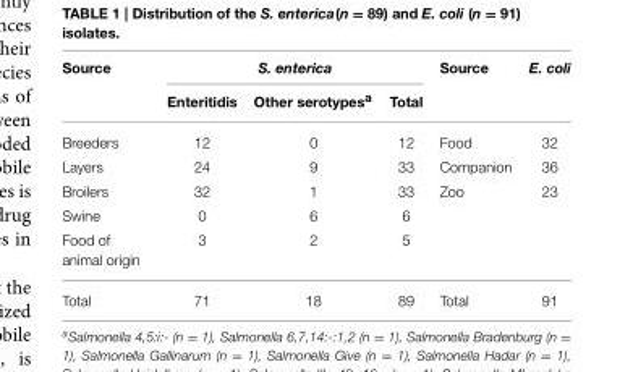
<table><thead><tr><td rowspan="2">Source</td><td colspan="3">S. enterica</td><td rowspan="2">Source</td><td rowspan="2">E. coli</td></tr><tr><td>Enteritidis</td><td>Other serotypes<sup>a</sup></td><td>Total</td></tr></thead><tbody><tr><td>Breeders</td><td>12</td><td>0</td><td>12</td><td>Food</td><td>32</td></tr><tr><td>Layers</td><td>24</td><td>9</td><td>33</td><td>Companion</td><td>36</td></tr><tr><td>Broilers</td><td>32</td><td>1</td><td>33</td><td>Zoo</td><td>23</td></tr><tr><td>Swine</td><td>0</td><td>6</td><td>6</td><td></td><td></td></tr><tr><td>Food of animal origin</td><td>3</td><td>2</td><td>5</td><td></td><td></td></tr><tr><td>Total</td><td>71</td><td>18</td><td>89</td><td>Total</td><td>91</td></tr></tbody></table>